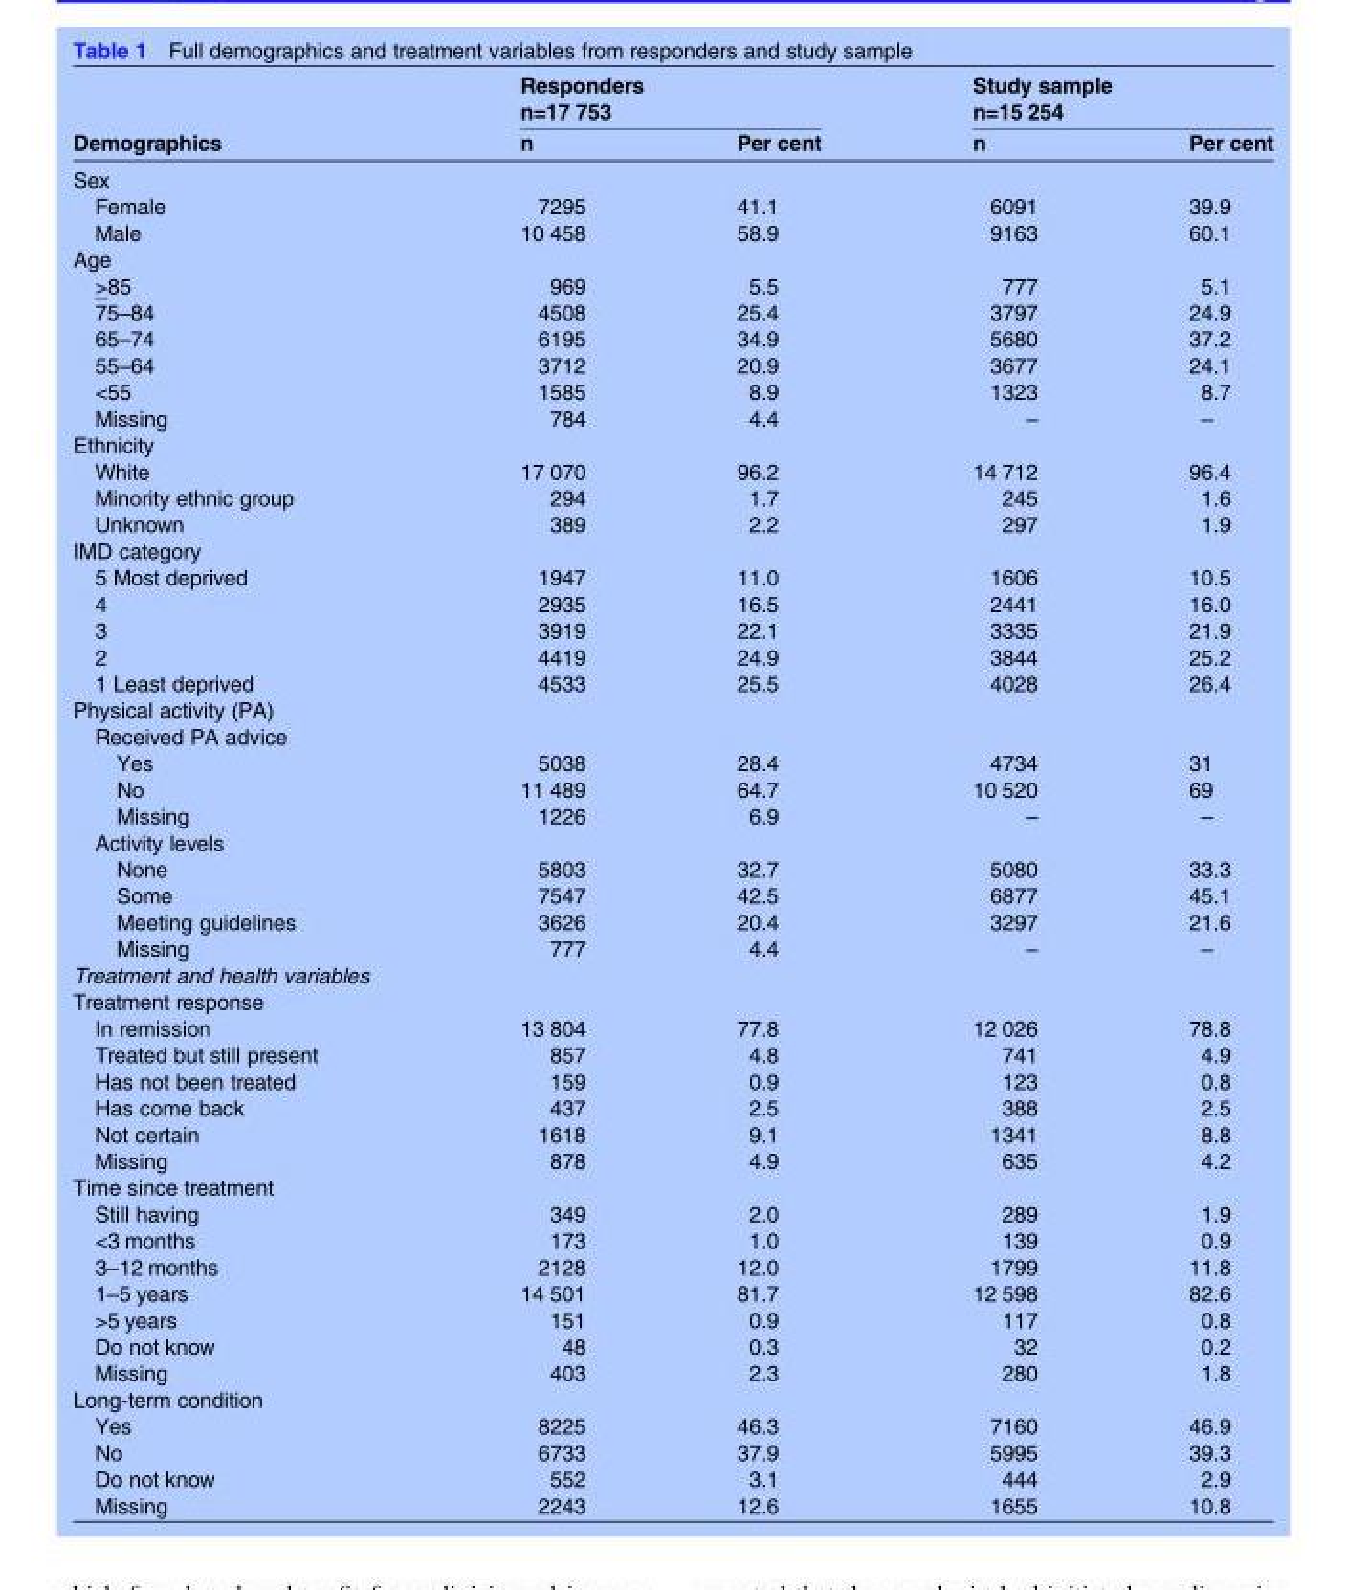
<table><thead><tr><td rowspan="2">Demographics</td><td colspan="2">Responders n=17 753</td><td colspan="2">Study sample n=15 254</td></tr><tr><td>n</td><td>Per cent</td><td>n</td><td>Per cent</td></tr></thead><tbody><tr><td colspan="5">Sex</td></tr><tr><td>Female</td><td>7295</td><td>41.1</td><td>6091</td><td>39.9</td></tr><tr><td>Male</td><td>10 458</td><td>58.9</td><td>9163</td><td>60.1</td></tr><tr><td colspan="5">Age</td></tr><tr><td>&gt;85</td><td>969</td><td>5.5</td><td>777</td><td>5.1</td></tr><tr><td>75–84</td><td>4508</td><td>25.4</td><td>3797</td><td>24.9</td></tr><tr><td>65–74</td><td>6195</td><td>34.9</td><td>5680</td><td>37.2</td></tr><tr><td>55–64</td><td>3712</td><td>20.9</td><td>3677</td><td>24.1</td></tr><tr><td>&lt;55</td><td>1585</td><td>8.9</td><td>1323</td><td>8.7</td></tr><tr><td>Missing</td><td>784</td><td>4.4</td><td>–</td><td>–</td></tr><tr><td colspan="5">Ethnicity</td></tr><tr><td>White</td><td>17 070</td><td>96.2</td><td>14 712</td><td>96.4</td></tr><tr><td>Minority ethnic group</td><td>294</td><td>1.7</td><td>245</td><td>1.6</td></tr><tr><td>Unknown</td><td>389</td><td>2.2</td><td>297</td><td>1.9</td></tr><tr><td colspan="5">IMD category</td></tr><tr><td>5 Most deprived</td><td>1947</td><td>11.0</td><td>1606</td><td>10.5</td></tr><tr><td>4</td><td>2935</td><td>16.5</td><td>2441</td><td>16.0</td></tr><tr><td>3</td><td>3919</td><td>22.1</td><td>3335</td><td>21.9</td></tr><tr><td>2</td><td>4419</td><td>24.9</td><td>3844</td><td>25.2</td></tr><tr><td>1 Least deprived</td><td>4533</td><td>25.5</td><td>4028</td><td>26.4</td></tr><tr><td colspan="5">Physical activity (PA)</td></tr><tr><td colspan="5">Received PA advice</td></tr><tr><td>Yes</td><td>5038</td><td>28.4</td><td>4734</td><td>31</td></tr><tr><td>No</td><td>11 489</td><td>64.7</td><td>10 520</td><td>69</td></tr><tr><td>Missing</td><td>1226</td><td>6.9</td><td>–</td><td>–</td></tr><tr><td colspan="5">Activity levels</td></tr><tr><td>None</td><td>5803</td><td>32.7</td><td>5080</td><td>33.3</td></tr><tr><td>Some</td><td>7547</td><td>42.5</td><td>6877</td><td>45.1</td></tr><tr><td>Meeting guidelines</td><td>3626</td><td>20.4</td><td>3297</td><td>21.6</td></tr><tr><td>Missing</td><td>777</td><td>4.4</td><td>–</td><td>–</td></tr><tr><td colspan="5">Treatment and health variables</td></tr><tr><td colspan="5">Treatment response</td></tr><tr><td>In remission</td><td>13 804</td><td>77.8</td><td>12 026</td><td>78.8</td></tr><tr><td>Treated but still present</td><td>857</td><td>4.8</td><td>741</td><td>4.9</td></tr><tr><td>Has not been treated</td><td>159</td><td>0.9</td><td>123</td><td>0.8</td></tr><tr><td>Has come back</td><td>437</td><td>2.5</td><td>388</td><td>2.5</td></tr><tr><td>Not certain</td><td>1618</td><td>9.1</td><td>1341</td><td>8.8</td></tr><tr><td>Missing</td><td>878</td><td>4.9</td><td>635</td><td>4.2</td></tr><tr><td colspan="5">Time since treatment</td></tr><tr><td>Still having</td><td>349</td><td>2.0</td><td>289</td><td>1.9</td></tr><tr><td>&lt;3 months</td><td>173</td><td>1.0</td><td>139</td><td>0.9</td></tr><tr><td>3–12 months</td><td>2128</td><td>12.0</td><td>1799</td><td>11.8</td></tr><tr><td>1–5 years</td><td>14 501</td><td>81.7</td><td>12 598</td><td>82.6</td></tr><tr><td>&gt;5 years</td><td>151</td><td>0.9</td><td>117</td><td>0.8</td></tr><tr><td>Do not know</td><td>48</td><td>0.3</td><td>32</td><td>0.2</td></tr><tr><td>Missing</td><td>403</td><td>2.3</td><td>280</td><td>1.8</td></tr><tr><td colspan="5">Long-term condition</td></tr><tr><td>Yes</td><td>8225</td><td>46.3</td><td>7160</td><td>46.9</td></tr><tr><td>No</td><td>6733</td><td>37.9</td><td>5995</td><td>39.3</td></tr><tr><td>Do not know</td><td>552</td><td>3.1</td><td>444</td><td>2.9</td></tr><tr><td>Missing</td><td>2243</td><td>12.6</td><td>1655</td><td>10.8</td></tr></tbody></table>